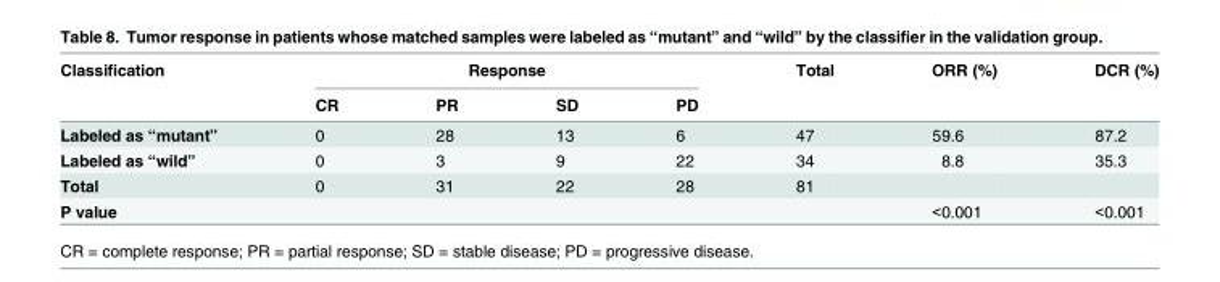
<table><thead><tr><td rowspan="2">Classification</td><td colspan="4">Response</td><td rowspan="2">Total</td><td rowspan="2">ORR (%)</td><td rowspan="2">DCR (%)</td></tr><tr><td>CR</td><td>PR</td><td>SD</td><td>PD</td></tr></thead><tbody><tr><td>Labeled as “mutant”</td><td>0</td><td>28</td><td>13</td><td>6</td><td>47</td><td>59.6</td><td>87.2</td></tr><tr><td>Labeled as “wild”</td><td>0</td><td>3</td><td>9</td><td>22</td><td>34</td><td>8.8</td><td>35.3</td></tr><tr><td>Total</td><td>0</td><td>31</td><td>22</td><td>28</td><td>81</td><td></td><td></td></tr><tr><td>P value</td><td></td><td></td><td></td><td></td><td></td><td>&lt;0.001</td><td>&lt;0.001</td></tr></tbody></table>